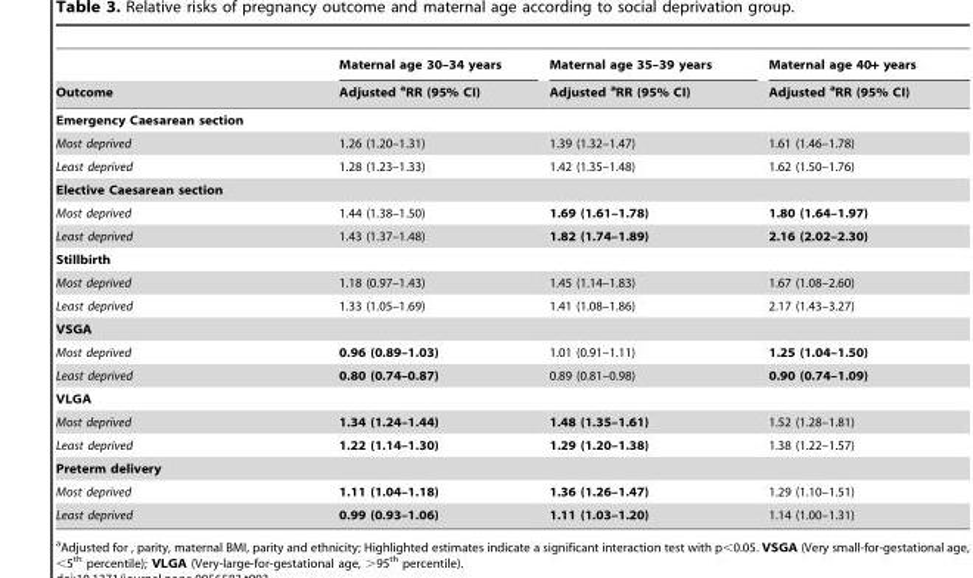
<table><thead><tr><td rowspan="2">Outcome</td><td rowspan="2">Maternal age 30–34 years Adjusted <sup>a</sup>RR (95% CI)</td><td rowspan="2">Maternal age 35–39 years Adjusted <sup>a</sup>RR (95% CI)</td><td rowspan="2">Maternal age 40+ years Adjusted <sup>a</sup>RR (95% CI)</td></tr><tr></tr></thead><tbody><tr><td colspan="4">Emergency Caesarean section</td></tr><tr><td>Most deprived</td><td>1.26 (1.20–1.31)</td><td>1.39 (1.32–1.47)</td><td>1.61 (1.46–1.78)</td></tr><tr><td>Least deprived</td><td>1.28 (1.23–1.33)</td><td>1.42 (1.35–1.48)</td><td>1.62 (1.50–1.76)</td></tr><tr><td colspan="4">Elective Caesarean section</td></tr><tr><td>Most deprived</td><td>1.44 (1.38–1.50)</td><td>1.69 (1.61–1.78)</td><td>1.80 (1.64–1.97)</td></tr><tr><td>Least deprived</td><td>1.43 (1.37–1.48)</td><td>1.82 (1.74–1.89)</td><td>2.16 (2.02–2.30)</td></tr><tr><td colspan="4">Stillbirth</td></tr><tr><td>Most deprived</td><td>1.18 (0.97–1.43)</td><td>1.45 (1.14–1.83)</td><td>1.67 (1.08–2.60)</td></tr><tr><td>Least deprived</td><td>1.33 (1.05–1.69)</td><td>1.41 (1.08–1.86)</td><td>2.17 (1.43–3.27)</td></tr><tr><td colspan="4">VSGA</td></tr><tr><td>Most deprived</td><td>0.96 (0.89–1.03)</td><td>1.01 (0.91–1.11)</td><td>1.25 (1.04–1.50)</td></tr><tr><td>Least deprived</td><td>0.80 (0.74–0.87)</td><td>0.89 (0.81–0.98)</td><td>0.90 (0.74–1.09)</td></tr><tr><td colspan="4">VLGA</td></tr><tr><td>Most deprived</td><td>1.34 (1.24–1.44)</td><td>1.48 (1.35–1.61)</td><td>1.52 (1.28–1.81)</td></tr><tr><td>Least deprived</td><td>1.22 (1.14–1.30)</td><td>1.29 (1.20–1.38)</td><td>1.38 (1.22–1.57)</td></tr><tr><td colspan="4">Preterm delivery</td></tr><tr><td>Most deprived</td><td>1.11 (1.04–1.18)</td><td>1.36 (1.26–1.47)</td><td>1.29 (1.10–1.51)</td></tr><tr><td>Least deprived</td><td>0.99 (0.93–1.06)</td><td>1.11 (1.03–1.20)</td><td>1.14 (1.00–1.31)</td></tr></tbody></table>